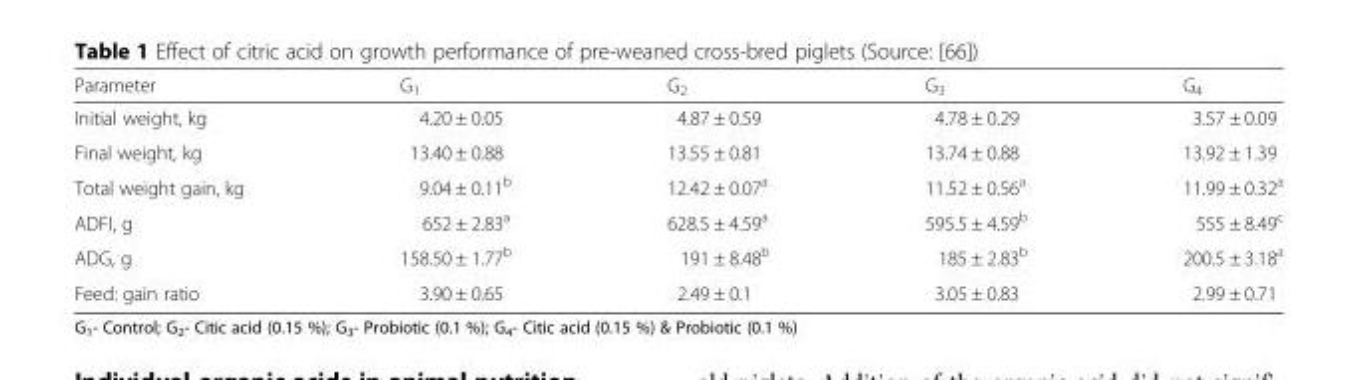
<table><thead><tr><td>Parameter</td><td>G<sub>1</sub></td><td>G<sub>2</sub></td><td>G<sub>3</sub></td><td>G<sub>4</sub></td></tr></thead><tbody><tr><td>Initial weight, kg</td><td>4.20 ± 0.05</td><td>4.87 ± 0.59</td><td>4.78 ± 0.29</td><td>3.57 ± 0.09</td></tr><tr><td>Final weight, kg</td><td>13.40 ± 0.88</td><td>13.55 ± 0.81</td><td>13.74 ± 0.88</td><td>13.92 ± 1.39</td></tr><tr><td>Total weight gain, kg</td><td>9.04 ± 0.11<sup>b</sup></td><td>12.42 ± 0.07<sup>a</sup></td><td>11.52 ± 0.56<sup>a</sup></td><td>11.99 ± 0.32<sup>a</sup></td></tr><tr><td>ADFI, g</td><td>652 ± 2.83<sup>a</sup></td><td>628.5 ± 4.59<sup>a</sup></td><td>595.5 ± 4.59<sup>b</sup></td><td>555 ± 8.49<sup>c</sup></td></tr><tr><td>ADG, g</td><td>158.50 ± 1.77<sup>b</sup></td><td>191 ± 8.48<sup>b</sup></td><td>185 ± 2.83<sup>b</sup></td><td>200.5 ± 3.18<sup>a</sup></td></tr><tr><td>Feed: gain ratio</td><td>3.90 ± 0.65</td><td>2.49 ± 0.1</td><td>3.05 ± 0.83</td><td>2.99 ± 0.71</td></tr></tbody></table>